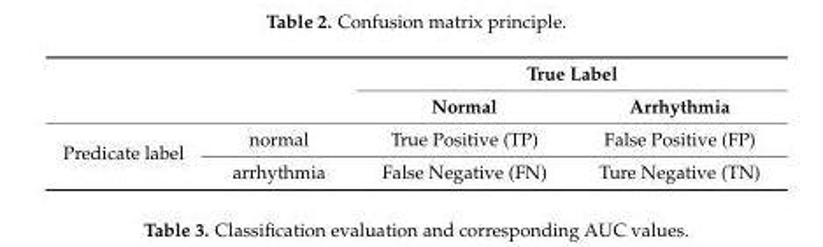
<table><thead><tr><td rowspan="2"></td><td rowspan="2"></td><td colspan="2">True Label</td></tr><tr><td>Normal</td><td>Arrhythmia</td></tr></thead><tbody><tr><td rowspan="2">Predicate label</td><td>normal</td><td>True Positive (TP)</td><td>False Positive (FP)</td></tr><tr><td>arrhythmia</td><td>False Negative (FN)</td><td>Ture Negative (TN)</td></tr></tbody></table>